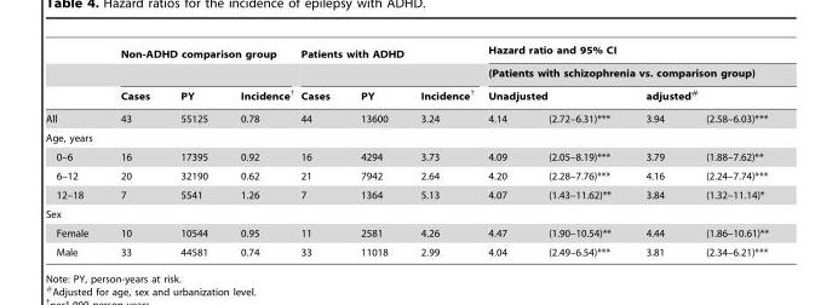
<table><thead><tr><td rowspan="4">All</td><td colspan="3">Non-ADHD comparison group</td><td colspan="3">Patients with ADHD</td><td rowspan="2" colspan="4">Hazard ratio and 95% CI (Patients with schizophrenia vs. comparison group)</td></tr><tr><td rowspan="3">Cases 43</td><td rowspan="3">PY 55125</td><td rowspan="3">Incidence† 0.78</td><td rowspan="3">Cases 44</td><td rowspan="3">PY 13600</td><td rowspan="3">Incidence† 3.24</td></tr><tr><td colspan="2">Unadjusted</td><td colspan="2">adjusted#</td></tr><tr><td>4.14</td><td>(2.72–6.31)***</td><td>3.94</td><td>(2.58–6.03)***</td></tr></thead><tbody><tr><td colspan="11">Age, years</td></tr><tr><td>0–6</td><td>16</td><td>17395</td><td>0.92</td><td>16</td><td>4294</td><td>3.73</td><td>4.09</td><td>(2.05–8.19)***</td><td>3.79</td><td>(1.88–7.62)**</td></tr><tr><td>6–12</td><td>20</td><td>32190</td><td>0.62</td><td>21</td><td>7942</td><td>2.64</td><td>4.20</td><td>(2.28–7.76)***</td><td>4.16</td><td>(2.24–7.74)***</td></tr><tr><td>12–18</td><td>7</td><td>5541</td><td>1.26</td><td>7</td><td>1364</td><td>5.13</td><td>4.07</td><td>(1.43–11.62)**</td><td>3.84</td><td>(1.32–11.14)*</td></tr><tr><td colspan="11">Sex</td></tr><tr><td>Female</td><td>10</td><td>10544</td><td>0.95</td><td>11</td><td>2581</td><td>4.26</td><td>4.47</td><td>(1.90–10.54)**</td><td>4.44</td><td>(1.86–10.61)**</td></tr><tr><td>Male</td><td>33</td><td>44581</td><td>0.74</td><td>33</td><td>11018</td><td>2.99</td><td>4.04</td><td>(2.49–6.54)***</td><td>3.81</td><td>(2.34–6.21)***</td></tr></tbody></table>